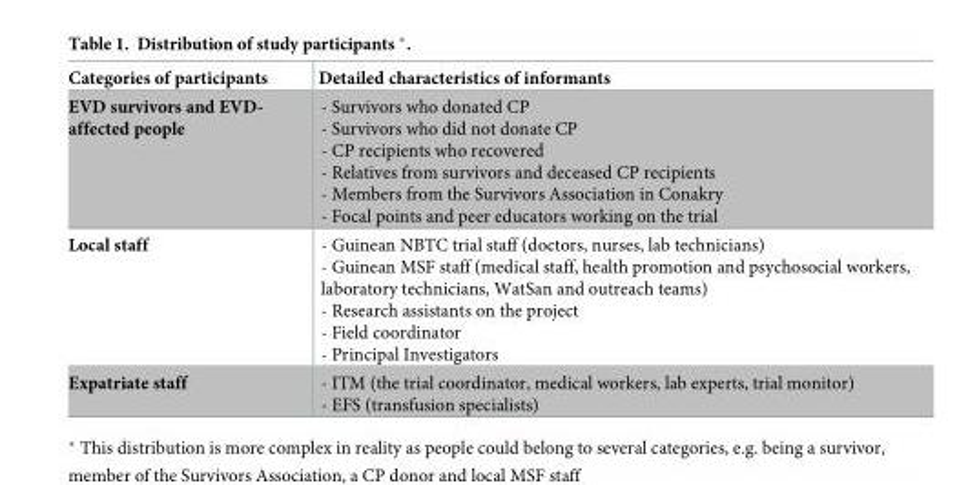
<table><thead><tr><td>Categories of participants</td><td>Detailed characteristics of informants</td></tr></thead><tbody><tr><td>EVD survivors and EVD- affected people</td><td>- Survivors who donated CP - Survivors who did not donate CP - CP recipients who recovered - Relatives from survivors and deceased CP recipients - Members from the Survivors Association in Conakry - Focal points and peer educators working on the trial</td></tr><tr><td>Local staff</td><td>- Guinean NBTC trial staff (doctors, nurses, lab technicians) - Guinean MSF staff (medical staff, health promotion and psychosocial workers, laboratory technicians, WatSan and outreach teams) - Research assistants on the project - Field coordinator - Principal Investigators</td></tr><tr><td>Expatriate staff</td><td>- ITM (the trial coordinator, medical workers, lab experts, trial monitor) - EFS (transfusion specialists)</td></tr></tbody></table>